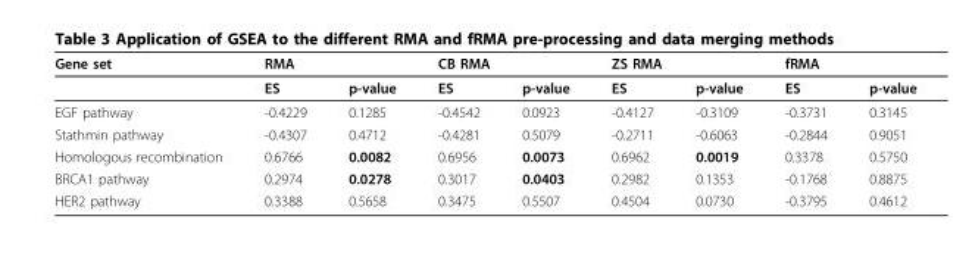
<table><thead><tr><td rowspan="2">Gene set</td><td colspan="2">RMA</td><td colspan="2">CB RMA</td><td colspan="2">ZS RMA</td><td colspan="2">fRMA</td></tr><tr><td>ES</td><td>p-value</td><td>ES</td><td>p-value</td><td>ES</td><td>p-value</td><td>ES</td><td>p-value</td></tr></thead><tbody><tr><td>EGF pathway</td><td>-0.4229</td><td>0.1285</td><td>-0.4542</td><td>0.0923</td><td>-0.4127</td><td>-0.3109</td><td>-0.3731</td><td>0.3145</td></tr><tr><td>Stathmin pathway</td><td>-0.4307</td><td>0.4712</td><td>-0.4281</td><td>0.5079</td><td>-0.2711</td><td>-0.6063</td><td>-0.2844</td><td>0.9051</td></tr><tr><td>Homologous recombination</td><td>0.6766</td><td>0.0082</td><td>0.6956</td><td>0.0073</td><td>0.6962</td><td>0.0019</td><td>0.3378</td><td>0.5750</td></tr><tr><td>BRCA1 pathway</td><td>0.2974</td><td>0.0278</td><td>0.3017</td><td>0.0403</td><td>0.2982</td><td>0.1353</td><td>-0.1768</td><td>0.8875</td></tr><tr><td>HER2 pathway</td><td>0.3388</td><td>0.5658</td><td>0.3475</td><td>0.5507</td><td>0.4504</td><td>0.0730</td><td>-0.3795</td><td>0.4612</td></tr></tbody></table>